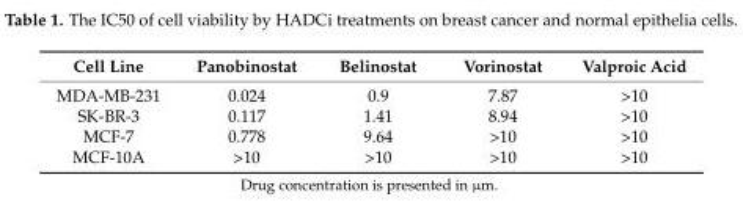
<table><thead><tr><td>Cell Line</td><td>Panobinostat</td><td>Belinostat</td><td>Vorinostat</td><td>Valproic Acid</td></tr></thead><tbody><tr><td>MDA-MB-231</td><td>0.024</td><td>0.9</td><td>7.87</td><td>&gt;10</td></tr><tr><td>SK-BR-3</td><td>0.117</td><td>1.41</td><td>8.94</td><td>&gt;10</td></tr><tr><td>MCF-7</td><td>0.778</td><td>9.64</td><td>&gt;10</td><td>&gt;10</td></tr><tr><td>MCF-10A</td><td>&gt;10</td><td>&gt;10</td><td>&gt;10</td><td>&gt;10</td></tr></tbody></table>